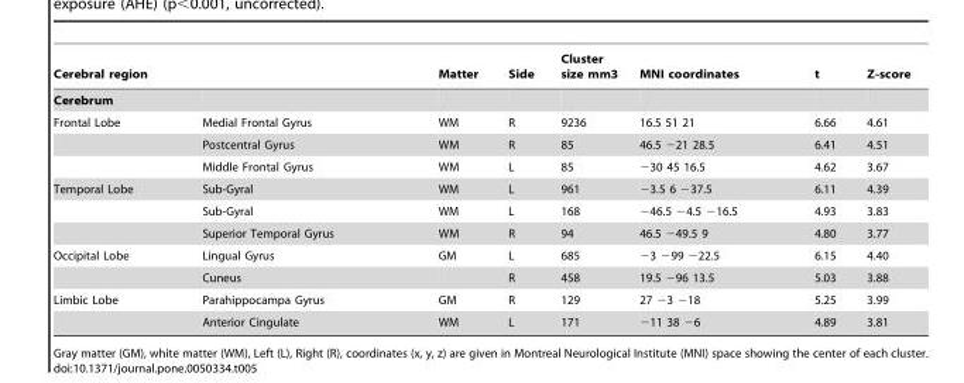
<table><thead><tr><td>Cerebral region</td><td></td><td>Matter</td><td>Side</td><td>Cluster size mm3</td><td>MNI coordinates</td><td>t</td><td>Z-score</td></tr></thead><tbody><tr><td colspan="8">Cerebrum</td></tr><tr><td rowspan="3">Frontal Lobe</td><td>Medial Frontal Gyrus</td><td>WM</td><td>R</td><td>9236</td><td>16.5 51 21</td><td>6.66</td><td>4.61</td></tr><tr><td>Postcentral Gyrus</td><td>WM</td><td>R</td><td>85</td><td>46.5 −21 28.5</td><td>6.41</td><td>4.51</td></tr><tr><td>Middle Frontal Gyrus</td><td>WM</td><td>L</td><td>85</td><td>−30 45 16.5</td><td>4.62</td><td>3.67</td></tr><tr><td rowspan="3">Temporal Lobe</td><td>Sub-Gyral</td><td>WM</td><td>L</td><td>961</td><td>−3.5 6 −37.5</td><td>6.11</td><td>4.39</td></tr><tr><td>Sub-Gyral</td><td>WM</td><td>L</td><td>168</td><td>−46.5 −4.5 −16.5</td><td>4.93</td><td>3.83</td></tr><tr><td>Superior Temporal Gyrus</td><td>WM</td><td>R</td><td>94</td><td>46.5 −49.5 9</td><td>4.80</td><td>3.77</td></tr><tr><td rowspan="2">Occipital Lobe</td><td>Lingual Gyrus</td><td>GM</td><td>L</td><td>685</td><td>−3 −99 −22.5</td><td>6.15</td><td>4.40</td></tr><tr><td>Cuneus</td><td></td><td>R</td><td>458</td><td>19.5 −96 13.5</td><td>5.03</td><td>3.88</td></tr><tr><td rowspan="2">Limbic Lobe</td><td>Parahippocampa Gyrus</td><td>GM</td><td>R</td><td>129</td><td>27 −3 −18</td><td>5.25</td><td>3.99</td></tr><tr><td>Anterior Cingulate</td><td>WM</td><td>L</td><td>171</td><td>−11 38 −6</td><td>4.89</td><td>3.81</td></tr></tbody></table>